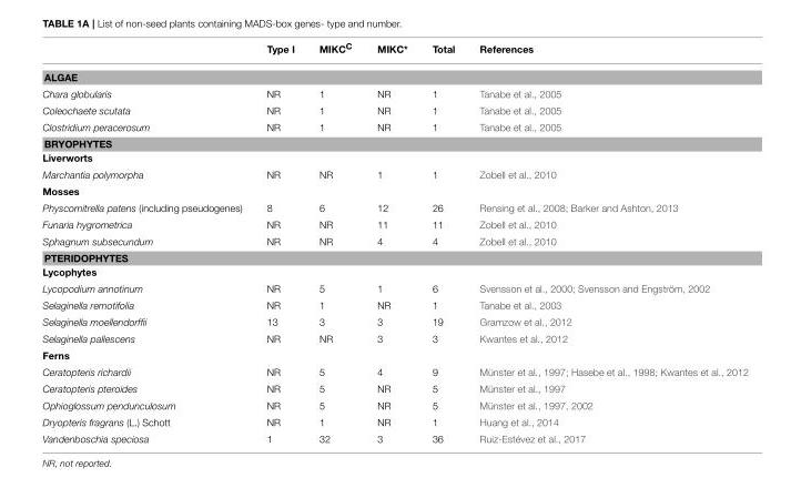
<table><thead><tr><td></td><td>Type I</td><td>MIKC<sup>C</sup></td><td>MIKC*</td><td>Total</td><td>References</td></tr></thead><tbody><tr><td colspan="6">ALGAE</td></tr><tr><td>Chara globularis</td><td>NR</td><td>1</td><td>NR</td><td>1</td><td>Tanabe et al., 2005</td></tr><tr><td>Coleochaete scutata</td><td>NR</td><td>1</td><td>NR</td><td>1</td><td>Tanabe et al., 2005</td></tr><tr><td>Clostridium peracerosum</td><td>NR</td><td>1</td><td>NR</td><td>1</td><td>Tanabe et al., 2005</td></tr><tr><td colspan="6">BRYOPHYTES</td></tr><tr><td colspan="6">Liverworts</td></tr><tr><td>Marchantia polymorpha</td><td>NR</td><td>NR</td><td>1</td><td>1</td><td>Zobell et al., 2010</td></tr><tr><td colspan="6">Mosses</td></tr><tr><td>Physcomitrella patens (including pseudogenes)</td><td>8</td><td>6</td><td>12</td><td>26</td><td>Rensing et al., 2008; Barker and Ashton, 2013</td></tr><tr><td>Funaria hygrometrica</td><td>NR</td><td>NR</td><td>11</td><td>11</td><td>Zobell et al., 2010</td></tr><tr><td>Sphagnum subsecundum</td><td>NR</td><td>NR</td><td>4</td><td>4</td><td>Zobell et al., 2010</td></tr><tr><td colspan="6">PTERIDOPHYTES</td></tr><tr><td colspan="6">Lycophytes</td></tr><tr><td>Lycopodium annotinum</td><td>NR</td><td>5</td><td>1</td><td>6</td><td>Svensson et al., 2000; Svensson and Engström, 2002</td></tr><tr><td>Selaginella remotifolia</td><td>NR</td><td>1</td><td>NR</td><td>1</td><td>Tanabe et al., 2003</td></tr><tr><td>Selaginella moellendorffii</td><td>13</td><td>3</td><td>3</td><td>19</td><td>Gramzow et al., 2012</td></tr><tr><td>Selaginella pallescens</td><td>NR</td><td>NR</td><td>3</td><td>3</td><td>Kwantes et al., 2012</td></tr><tr><td colspan="6">Ferns</td></tr><tr><td>Ceratopteris richardii</td><td>NR</td><td>5</td><td>4</td><td>9</td><td>Münster et al., 1997; Hasebe et al., 1998; Kwantes et al., 2012</td></tr><tr><td>Ceratopteris pteroides</td><td>NR</td><td>5</td><td>NR</td><td>5</td><td>Münster et al., 1997</td></tr><tr><td>Ophioglossum pendunculosum</td><td>NR</td><td>5</td><td>NR</td><td>5</td><td>Münster et al., 1997, 2002</td></tr><tr><td>Dryopteris fragrans (L.) Schott</td><td>NR</td><td>1</td><td>NR</td><td>1</td><td>Huang et al., 2014</td></tr><tr><td>Vandenboschia speciosa</td><td>1</td><td>32</td><td>3</td><td>36</td><td>Ruiz-Estévez et al., 2017</td></tr></tbody></table>